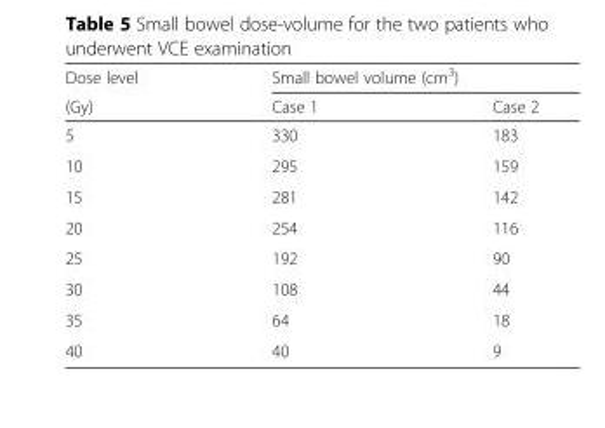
<table><thead><tr><td rowspan="2">Dose level (Gy)</td><td colspan="2">Small bowel volume (cm<sup>3</sup>)</td></tr><tr><td>Case 1</td><td>Case 2</td></tr></thead><tbody><tr><td>5</td><td>330</td><td>183</td></tr><tr><td>10</td><td>295</td><td>159</td></tr><tr><td>15</td><td>281</td><td>142</td></tr><tr><td>20</td><td>254</td><td>116</td></tr><tr><td>25</td><td>192</td><td>90</td></tr><tr><td>30</td><td>108</td><td>44</td></tr><tr><td>35</td><td>64</td><td>18</td></tr><tr><td>40</td><td>40</td><td>9</td></tr></tbody></table>